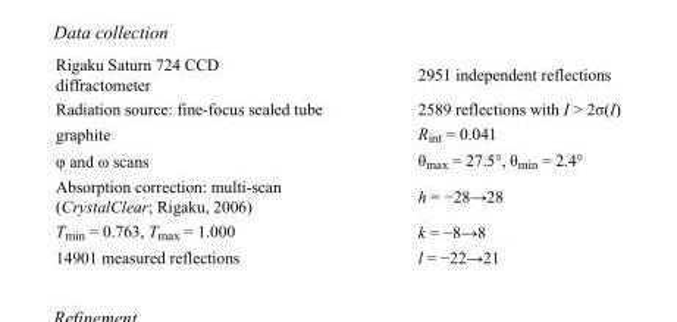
<table><tbody><tr><td>Rigaku Saturn 724 CCD diffractometer</td><td>2951 independent reflections</td></tr><tr><td>Radiation source: fine-focus sealed tube</td><td>2589 reflections with I &gt; 2σ(I)</td></tr><tr><td>graphite</td><td>R<sub>int</sub> = 0.041</td></tr><tr><td>φ and ω scans</td><td>θ<sub>max</sub> = 27.5°, θ<sub>min</sub> = 2.4°</td></tr><tr><td>Absorption correction: multi-scan (CrystalClear; Rigaku, 2006)</td><td>h = −28→28</td></tr><tr><td>T<sub>min</sub> = 0.763, T<sub>max</sub> = 1.000</td><td>k = −8→8</td></tr><tr><td>14901 measured reflections</td><td>l = −22→21</td></tr></tbody></table>